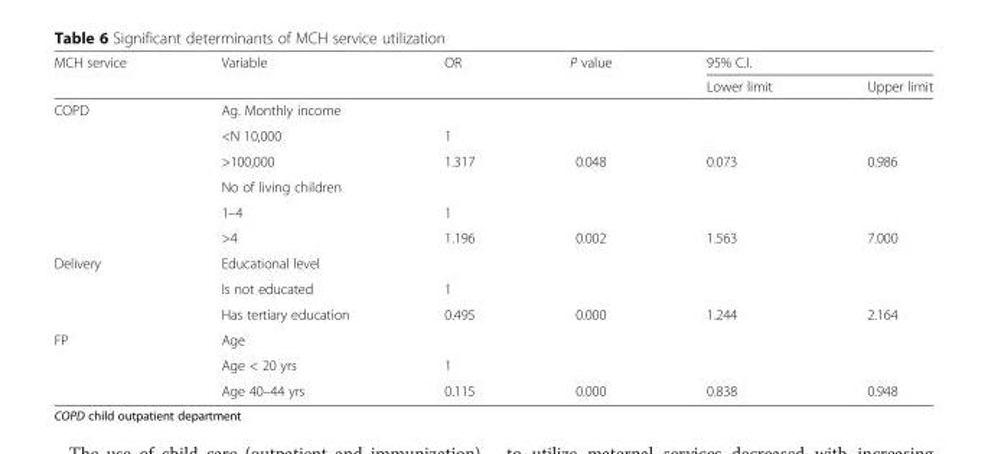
<table><thead><tr><td rowspan="2">MCH service</td><td rowspan="2">Variable</td><td rowspan="2">OR</td><td rowspan="2">P value</td><td colspan="2">95% C.I.</td></tr><tr><td>Lower limit</td><td>Upper limit</td></tr></thead><tbody><tr><td rowspan="6">COPD</td><td>Ag. Monthly income</td><td></td><td></td><td></td><td></td></tr><tr><td>&lt;N 10,000</td><td>1</td><td></td><td></td><td></td></tr><tr><td>&gt;100,000</td><td>1.317</td><td>0.048</td><td>0.073</td><td>0.986</td></tr><tr><td>No of living children</td><td></td><td></td><td></td><td></td></tr><tr><td>1–4</td><td>1</td><td></td><td></td><td></td></tr><tr><td>&gt;4</td><td>1.196</td><td>0.002</td><td>1.563</td><td>7.000</td></tr><tr><td rowspan="3">Delivery</td><td>Educational level</td><td></td><td></td><td></td><td></td></tr><tr><td>Is not educated</td><td>1</td><td></td><td></td><td></td></tr><tr><td>Has tertiary education</td><td>0.495</td><td>0.000</td><td>1.244</td><td>2.164</td></tr><tr><td rowspan="3">FP</td><td>Age</td><td></td><td></td><td></td><td></td></tr><tr><td>Age &lt; 20 yrs</td><td>1</td><td></td><td></td><td></td></tr><tr><td>Age 40–44 yrs</td><td>0.115</td><td>0.000</td><td>0.838</td><td>0.948</td></tr></tbody></table>